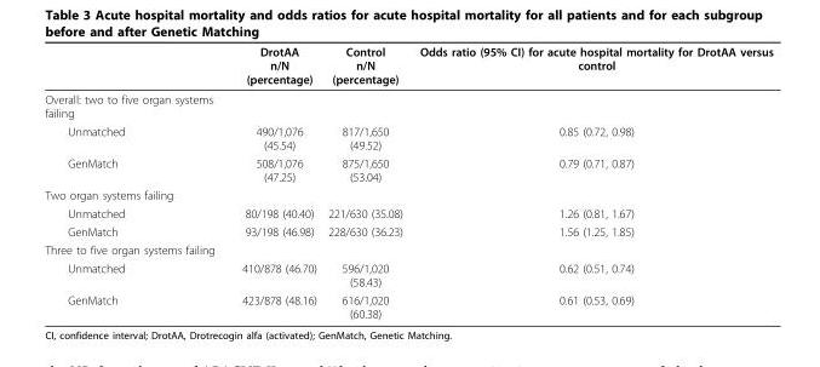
<table><thead><tr><td></td><td>DrotAA n/N (percentage)</td><td>Control n/N (percentage)</td><td>Odds ratio (95% CI) for acute hospital mortality for DrotAA versus control</td></tr></thead><tbody><tr><td colspan="4">Overall: two to five organ systems failing</td></tr><tr><td>Unmatched</td><td>490/1,076 (45.54)</td><td>817/1,650 (49.52)</td><td>0.85 (0.72, 0.98)</td></tr><tr><td>GenMatch</td><td>508/1,076 (47.25)</td><td>875/1,650 (53.04)</td><td>0.79 (0.71, 0.87)</td></tr><tr><td colspan="4">Two organ systems failing</td></tr><tr><td>Unmatched</td><td>80/198 (40.40)</td><td>221/630 (35.08)</td><td>1.26 (0.81, 1.67)</td></tr><tr><td>GenMatch</td><td>93/198 (46.98)</td><td>228/630 (36.23)</td><td>1.56 (1.25, 1.85)</td></tr><tr><td colspan="4">Three to five organ systems failing</td></tr><tr><td>Unmatched</td><td>410/878 (46.70)</td><td>596/1,020 (58.43)</td><td>0.62 (0.51, 0.74)</td></tr><tr><td>GenMatch</td><td>423/878 (48.16)</td><td>616/1,020 (60.38)</td><td>0.61 (0.53, 0.69)</td></tr></tbody></table>